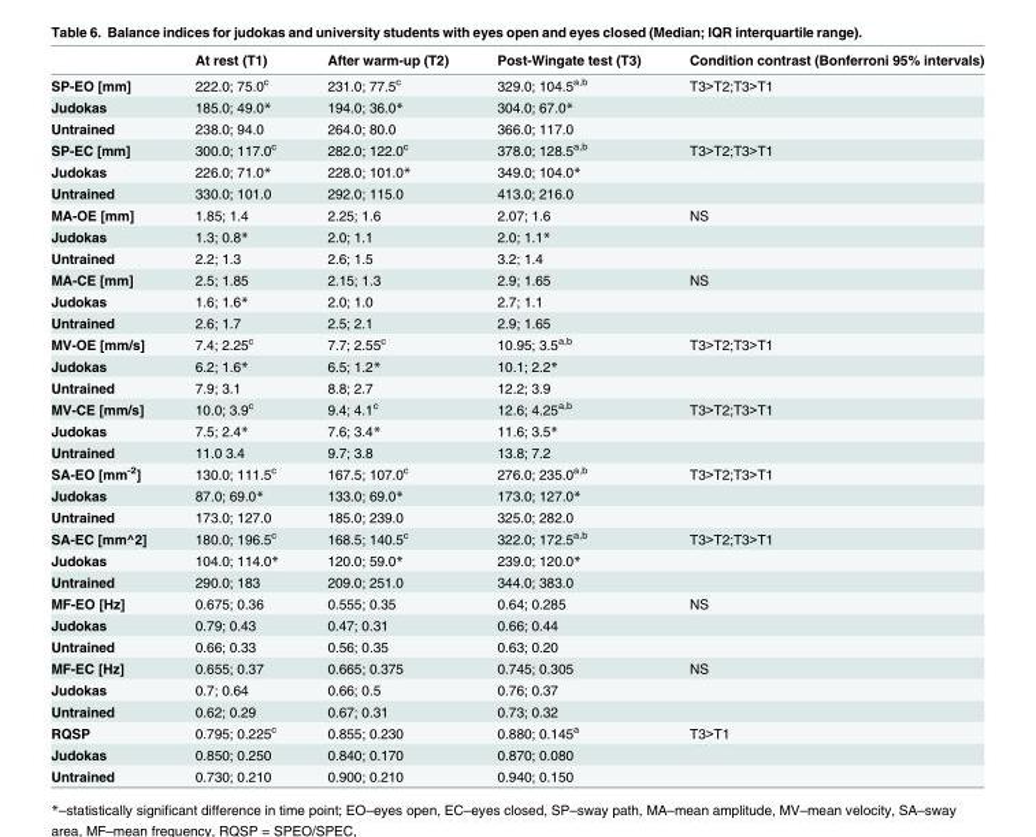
<table><thead><tr><td></td><td>At rest (T1)</td><td>After warm-up (T2)</td><td>Post-Wingate test (T3)</td><td>Condition contrast (Bonferroni 95% intervals)</td></tr></thead><tbody><tr><td>SP-EO [mm]</td><td>222.0; 75.0<sup>c</sup></td><td>231.0; 77.5<sup>c</sup></td><td>329.0; 104.5<sup>a,b</sup></td><td>T3&gt;T2;T3&gt;T1</td></tr><tr><td>Judokas</td><td>185.0; 49.0*</td><td>194.0; 36.0*</td><td>304.0; 67.0*</td><td></td></tr><tr><td>Untrained</td><td>238.0; 94.0</td><td>264.0; 80.0</td><td>366.0; 117.0</td><td></td></tr><tr><td>SP-EC [mm]</td><td>300.0; 117.0<sup>c</sup></td><td>282.0; 122.0<sup>c</sup></td><td>378.0; 128.5<sup>a,b</sup></td><td>T3&gt;T2;T3&gt;T1</td></tr><tr><td>Judokas</td><td>226.0; 71.0*</td><td>228.0; 101.0*</td><td>349.0; 104.0*</td><td></td></tr><tr><td>Untrained</td><td>330.0; 101.0</td><td>292.0; 115.0</td><td>413.0; 216.0</td><td></td></tr><tr><td>MA-OE [mm]</td><td>1.85; 1.4</td><td>2.25; 1.6</td><td>2.07; 1.6</td><td>NS</td></tr><tr><td>Judokas</td><td>1.3; 0.8*</td><td>2.0; 1.1</td><td>2.0; 1.1*</td><td></td></tr><tr><td>Untrained</td><td>2.2; 1.3</td><td>2.6; 1.5</td><td>3.2; 1.4</td><td></td></tr><tr><td>MA-CE [mm]</td><td>2.5; 1.85</td><td>2.15; 1.3</td><td>2.9; 1.65</td><td>NS</td></tr><tr><td>Judokas</td><td>1.6; 1.6*</td><td>2.0; 1.0</td><td>2.7; 1.1</td><td></td></tr><tr><td>Untrained</td><td>2.6; 1.7</td><td>2.5; 2.1</td><td>2.9; 1.65</td><td></td></tr><tr><td>MV-OE [mm/s]</td><td>7.4; 2.25<sup>c</sup></td><td>7.7; 2.55<sup>c</sup></td><td>10.95; 3.5<sup>a,b</sup></td><td>T3&gt;T2;T3&gt;T1</td></tr><tr><td>Judokas</td><td>6.2; 1.6*</td><td>6.5; 1.2*</td><td>10.1; 2.2*</td><td></td></tr><tr><td>Untrained</td><td>7.9; 3.1</td><td>8.8; 2.7</td><td>12.2; 3.9</td><td></td></tr><tr><td>MV-CE [mm/s]</td><td>10.0; 3.9<sup>c</sup></td><td>9.4; 4.1<sup>c</sup></td><td>12.6; 4.25<sup>a,b</sup></td><td>T3&gt;T2;T3&gt;T1</td></tr><tr><td>Judokas</td><td>7.5; 2.4*</td><td>7.6; 3.4*</td><td>11.6; 3.5*</td><td></td></tr><tr><td>Untrained</td><td>11.0 3.4</td><td>9.7; 3.8</td><td>13.8; 7.2</td><td></td></tr><tr><td>SA-EO [mm<sup>-2</sup>]</td><td>130.0; 111.5<sup>c</sup></td><td>167.5; 107.0<sup>c</sup></td><td>276.0; 235.0<sup>a,b</sup></td><td>T3&gt;T2;T3&gt;T1</td></tr><tr><td>Judokas</td><td>87.0; 69.0*</td><td>133.0; 69.0*</td><td>173.0; 127.0*</td><td></td></tr><tr><td>Untrained</td><td>173.0; 127.0</td><td>185.0; 239.0</td><td>325.0; 282.0</td><td></td></tr><tr><td>SA-EC [mm^2]</td><td>180.0; 196.5<sup>c</sup></td><td>168.5; 140.5<sup>c</sup></td><td>322.0; 172.5<sup>a,b</sup></td><td>T3&gt;T2;T3&gt;T1</td></tr><tr><td>Judokas</td><td>104.0; 114.0*</td><td>120.0; 59.0*</td><td>239.0; 120.0*</td><td></td></tr><tr><td>Untrained</td><td>290.0; 183</td><td>209.0; 251.0</td><td>344.0; 383.0</td><td></td></tr><tr><td>MF-EO [Hz]</td><td>0.675; 0.36</td><td>0.555; 0.35</td><td>0.64; 0.285</td><td>NS</td></tr><tr><td>Judokas</td><td>0.79; 0.43</td><td>0.47; 0.31</td><td>0.66; 0.44</td><td></td></tr><tr><td>Untrained</td><td>0.66; 0.33</td><td>0.56; 0.35</td><td>0.63; 0.20</td><td></td></tr><tr><td>MF-EC [Hz]</td><td>0.655; 0.37</td><td>0.665; 0.375</td><td>0.745; 0.305</td><td>NS</td></tr><tr><td>Judokas</td><td>0.7; 0.64</td><td>0.66; 0.5</td><td>0.76; 0.37</td><td></td></tr><tr><td>Untrained</td><td>0.62; 0.29</td><td>0.67; 0.31</td><td>0.73; 0.32</td><td></td></tr><tr><td>RQSP</td><td>0.795; 0.225<sup>c</sup></td><td>0.855; 0.230</td><td>0.880; 0.145<sup>a</sup></td><td>T3&gt;T1</td></tr><tr><td>Judokas</td><td>0.850; 0.250</td><td>0.840; 0.170</td><td>0.870; 0.080</td><td></td></tr><tr><td>Untrained</td><td>0.730; 0.210</td><td>0.900; 0.210</td><td>0.940; 0.150</td><td></td></tr></tbody></table>